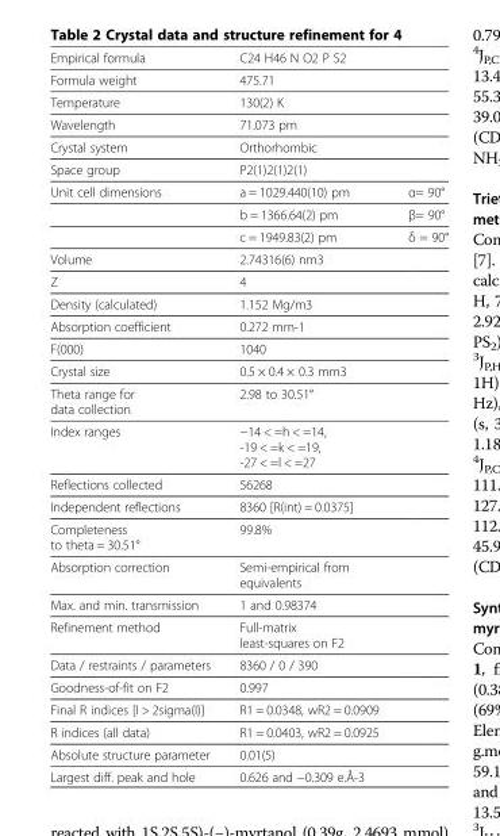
<table><tbody><tr><td>Empirical formula</td><td>C24 H46 N O2 P S2</td><td></td></tr><tr><td>Formula weight</td><td>475.71</td><td></td></tr><tr><td>Temperature</td><td>130(2) K</td><td></td></tr><tr><td>Wavelength</td><td>71.073 pm</td><td></td></tr><tr><td>Crystal system</td><td>Orthorhombic</td><td></td></tr><tr><td>Space group</td><td>P2(1)2(1)2(1)</td><td></td></tr><tr><td rowspan="3">Unit cell dimensions</td><td>a = 1029.440(10) pm</td><td>α= 90°</td></tr><tr><td>b = 1366.64(2) pm</td><td>β= 90°</td></tr><tr><td>c = 1949.83(2) pm</td><td>δ = 90°</td></tr><tr><td>Volume</td><td>2.74316(6) nm3</td><td></td></tr><tr><td>Z</td><td>4</td><td></td></tr><tr><td>Density (calculated)</td><td>1.152 Mg/m3</td><td></td></tr><tr><td>Absorption coefficient</td><td>0.272 mm-1</td><td></td></tr><tr><td>F(000)</td><td>1040</td><td></td></tr><tr><td>Crystal size</td><td>0.5 × 0.4 × 0.3 mm3</td><td></td></tr><tr><td>Theta range for data collection</td><td>2.98 to 30.51°</td><td></td></tr><tr><td>Index ranges</td><td>−14 &lt; =h &lt; =14, -19 &lt; =k &lt; =19, -27 &lt; =l &lt; =27</td><td></td></tr><tr><td>Reflections collected</td><td>56268</td><td></td></tr><tr><td>Independent reflections</td><td>8360 [R(int) = 0.0375]</td><td></td></tr><tr><td>Completeness to theta = 30.51°</td><td>99.8%</td><td></td></tr><tr><td>Absorption correction</td><td>Semi-empirical from equivalents</td><td></td></tr><tr><td>Max. and min. transmission</td><td>1 and 0.98374</td><td></td></tr><tr><td>Refinement method</td><td>Full-matrix least-squares on F2</td><td></td></tr><tr><td>Data / restraints / parameters</td><td>8360 / 0 / 390</td><td></td></tr><tr><td>Goodness-of-fit on F2</td><td>0.997</td><td></td></tr><tr><td>Final R indices [I &gt; 2sigma(I)]</td><td>R1 = 0.0348, wR2 = 0.0909</td><td></td></tr><tr><td>R indices (all data)</td><td>R1 = 0.0403, wR2 = 0.0925</td><td></td></tr><tr><td>Absolute structure parameter</td><td>0.01(5)</td><td></td></tr><tr><td>Largest diff. peak and hole</td><td>0.626 and −0.309 e.Å-3</td><td></td></tr></tbody></table>